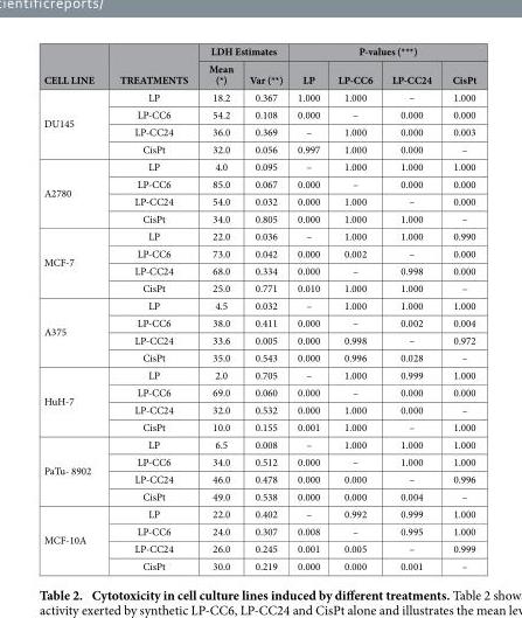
<table><thead><tr><td rowspan="2">CELL LINE</td><td rowspan="2">TREATMENTS</td><td colspan="2">LDH Estimates</td><td colspan="4">P-values (***)</td></tr><tr><td>Mean (*)</td><td>Var (**)</td><td>LP</td><td>LP-CC6</td><td>LP-CC24</td><td>CisPt</td></tr></thead><tbody><tr><td rowspan="4">DU145</td><td>LP</td><td>18.2</td><td>0.367</td><td>1.000</td><td>1.000</td><td>–</td><td>1.000</td></tr><tr><td>LP-CC6</td><td>54.2</td><td>0.108</td><td>0.000</td><td>–</td><td>0.000</td><td>0.000</td></tr><tr><td>LP-CC24</td><td>36.0</td><td>0.369</td><td>–</td><td>1.000</td><td>0.000</td><td>0.003</td></tr><tr><td>CisPt</td><td>32.0</td><td>0.056</td><td>0.997</td><td>1.000</td><td>0.000</td><td>–</td></tr><tr><td rowspan="4">A2780</td><td>LP</td><td>4.0</td><td>0.095</td><td>–</td><td>1.000</td><td>1.000</td><td>1.000</td></tr><tr><td>LP-CC6</td><td>85.0</td><td>0.067</td><td>0.000</td><td>–</td><td>0.000</td><td>0.000</td></tr><tr><td>LP-CC24</td><td>54.0</td><td>0.032</td><td>0.000</td><td>1.000</td><td>–</td><td>0.000</td></tr><tr><td>CisPt</td><td>34.0</td><td>0.805</td><td>0.000</td><td>1.000</td><td>1.000</td><td>–</td></tr><tr><td rowspan="4">MCF-7</td><td>LP</td><td>22.0</td><td>0.036</td><td>–</td><td>1.000</td><td>1.000</td><td>0.990</td></tr><tr><td>LP-CC6</td><td>73.0</td><td>0.042</td><td>0.000</td><td>0.002</td><td>–</td><td>0.000</td></tr><tr><td>LP-CC24</td><td>68.0</td><td>0.334</td><td>0.000</td><td>–</td><td>0.998</td><td>0.000</td></tr><tr><td>CisPt</td><td>25.0</td><td>0.771</td><td>0.010</td><td>1.000</td><td>1.000</td><td>–</td></tr><tr><td rowspan="4">A375</td><td>LP</td><td>4.5</td><td>0.032</td><td>–</td><td>1.000</td><td>1.000</td><td>1.000</td></tr><tr><td>LP-CC6</td><td>38.0</td><td>0.411</td><td>0.000</td><td>–</td><td>0.002</td><td>0.004</td></tr><tr><td>LP-CC24</td><td>33.6</td><td>0.005</td><td>0.000</td><td>0.998</td><td>–</td><td>0.972</td></tr><tr><td>CisPt</td><td>35.0</td><td>0.543</td><td>0.000</td><td>0.996</td><td>0.028</td><td>–</td></tr><tr><td rowspan="4">HuH-7</td><td>LP</td><td>2.0</td><td>0.705</td><td>–</td><td>1.000</td><td>0.999</td><td>1.000</td></tr><tr><td>LP-CC6</td><td>69.0</td><td>0.060</td><td>0.000</td><td>–</td><td>0.000</td><td>0.000</td></tr><tr><td>LP-CC24</td><td>32.0</td><td>0.532</td><td>0.000</td><td>1.000</td><td>0.000</td><td>–</td></tr><tr><td>CisPt</td><td>10.0</td><td>0.155</td><td>0.001</td><td>1.000</td><td>–</td><td>1.000</td></tr><tr><td rowspan="4">PaTu- 8902</td><td>LP</td><td>6.5</td><td>0.008</td><td>–</td><td>1.000</td><td>1.000</td><td>1.000</td></tr><tr><td>LP-CC6</td><td>34.0</td><td>0.512</td><td>0.000</td><td>–</td><td>1.000</td><td>1.000</td></tr><tr><td>LP-CC24</td><td>46.0</td><td>0.478</td><td>0.000</td><td>0.000</td><td>–</td><td>0.996</td></tr><tr><td>CisPt</td><td>49.0</td><td>0.538</td><td>0.000</td><td>0.000</td><td>0.004</td><td>–</td></tr><tr><td rowspan="4">MCF-10A</td><td>LP</td><td>22.0</td><td>0.402</td><td>–</td><td>0.992</td><td>0.999</td><td>1.000</td></tr><tr><td>LP-CC6</td><td>24.0</td><td>0.307</td><td>0.008</td><td>–</td><td>0.995</td><td>1.000</td></tr><tr><td>LP-CC24</td><td>26.0</td><td>0.245</td><td>0.001</td><td>0.005</td><td>–</td><td>0.999</td></tr><tr><td>CisPt</td><td>30.0</td><td>0.219</td><td>0.000</td><td>0.000</td><td>0.001</td><td>–</td></tr></tbody></table>